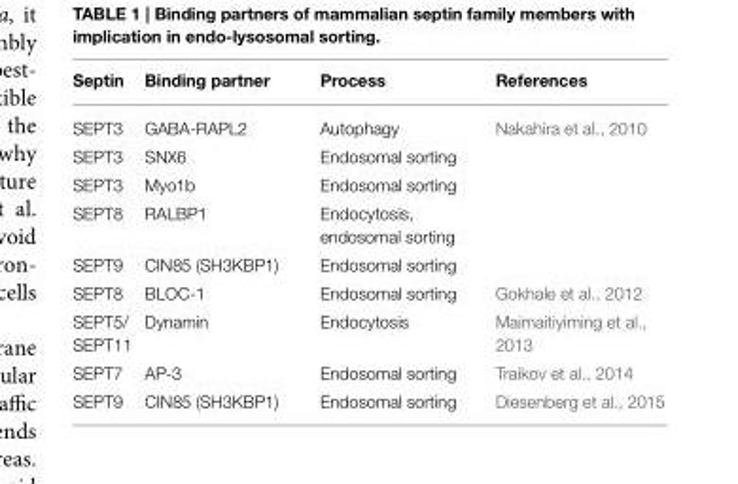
<table><thead><tr><td>Septin</td><td>Binding partner</td><td>Process</td><td>References</td></tr></thead><tbody><tr><td>SEPT3</td><td>GABA-RAPL2</td><td>Autophagy</td><td>Nakahira et al., 2010</td></tr><tr><td>SEPT3</td><td>SNX6</td><td>Endosomal sorting</td><td></td></tr><tr><td>SEPT3</td><td>Myo1b</td><td>Endosomal sorting</td><td></td></tr><tr><td>SEPT8</td><td>RALBP1</td><td>Endocytosis, endosomal sorting</td><td></td></tr><tr><td>SEPT9</td><td>CIN85 (SH3KBP1)</td><td>Endosomal sorting</td><td></td></tr><tr><td>SEPT8</td><td>BLOC-1</td><td>Endosomal sorting</td><td>Gokhale et al., 2012</td></tr><tr><td>SEPT5/ SEPT11</td><td>Dynamin</td><td>Endocytosis</td><td>Maimaitiyiming et al., 2013</td></tr><tr><td>SEPT7</td><td>AP-3</td><td>Endosomal sorting</td><td>Traikov et al., 2014</td></tr><tr><td>SEPT9</td><td>CIN85 (SH3KBP1)</td><td>Endosomal sorting</td><td>Diesenberg et al., 2015</td></tr></tbody></table>